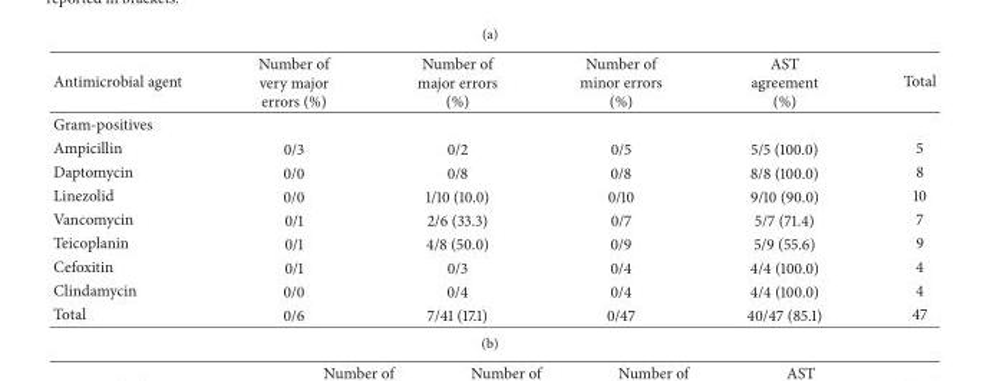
<table><thead><tr><td>Antimicrobial agent</td><td>Number of very major errors (%)</td><td>Number of major errors (%)</td><td>Number of minor errors (%)</td><td>AST agreement (%)</td><td>Total</td></tr></thead><tbody><tr><td colspan="6">Gram-positives</td></tr><tr><td>Ampicillin</td><td>0/3</td><td>0/2</td><td>0/5</td><td>5/5 (100.0)</td><td>5</td></tr><tr><td>Daptomycin</td><td>0/0</td><td>0/8</td><td>0/8</td><td>8/8 (100.0)</td><td>8</td></tr><tr><td>Linezolid</td><td>0/0</td><td>1/10 (10.0)</td><td>0/10</td><td>9/10 (90.0)</td><td>10</td></tr><tr><td>Vancomycin</td><td>0/1</td><td>2/6 (33.3)</td><td>0/7</td><td>5/7 (71.4)</td><td>7</td></tr><tr><td>Teicoplanin</td><td>0/1</td><td>4/8 (50.0)</td><td>0/9</td><td>5/9 (55.6)</td><td>9</td></tr><tr><td>Cefoxitin</td><td>0/1</td><td>0/3</td><td>0/4</td><td>4/4 (100.0)</td><td>4</td></tr><tr><td>Clindamycin</td><td>0/0</td><td>0/4</td><td>0/4</td><td>4/4 (100.0)</td><td>4</td></tr><tr><td>Total</td><td>0/6</td><td>7/41 (17.1)</td><td>0/47</td><td>40/47 (85.1)</td><td>47</td></tr></tbody></table>